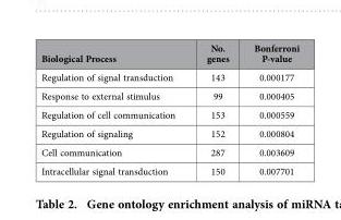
<table><thead><tr><td>Biological Process</td><td>No. genes</td><td>Bonferroni P-value</td></tr></thead><tbody><tr><td>Regulation of signal transduction</td><td>143</td><td>0.000177</td></tr><tr><td>Response to external stimulus</td><td>99</td><td>0.000405</td></tr><tr><td>Regulation of cell communication</td><td>153</td><td>0.000559</td></tr><tr><td>Regulation of signaling</td><td>152</td><td>0.000804</td></tr><tr><td>Cell communication</td><td>287</td><td>0.003609</td></tr><tr><td>Intracellular signal transduction</td><td>150</td><td>0.007701</td></tr></tbody></table>